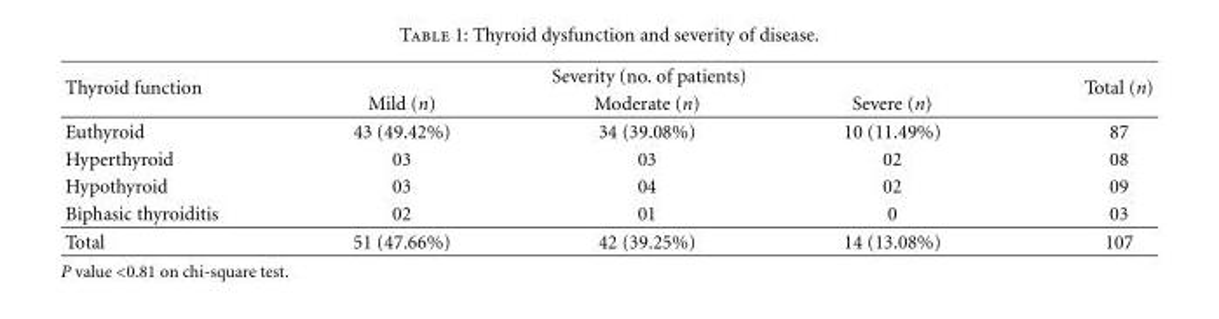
<table><thead><tr><td rowspan="2">Thyroid function</td><td colspan="3">Severity (no. of patients)</td><td rowspan="2">Total (n)</td></tr><tr><td>Mild (n)</td><td>Moderate (n)</td><td>Severe (n)</td></tr></thead><tbody><tr><td>Euthyroid</td><td>43 (49.42%)</td><td>34 (39.08%)</td><td>10 (11.49%)</td><td>87</td></tr><tr><td>Hyperthyroid</td><td>03</td><td>03</td><td>02</td><td>08</td></tr><tr><td>Hypothyroid</td><td>03</td><td>04</td><td>02</td><td>09</td></tr><tr><td>Biphasic thyroiditis</td><td>02</td><td>01</td><td>0</td><td>03</td></tr><tr><td>Total</td><td>51 (47.66%)</td><td>42 (39.25%)</td><td>14 (13.08%)</td><td>107</td></tr></tbody></table>